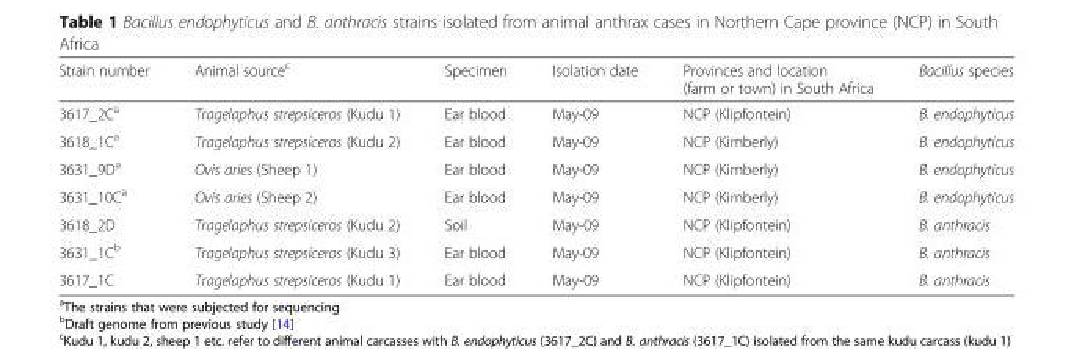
<table><thead><tr><td>Strain number</td><td>Animal source<sup>c</sup></td><td>Specimen</td><td>Isolation date</td><td>Provinces and location (farm or town) in South Africa</td><td>Bacillus species</td></tr></thead><tbody><tr><td>3617_2C<sup>a</sup></td><td>Tragelaphus strepsiceros (Kudu 1)</td><td>Ear blood</td><td>May-09</td><td>NCP (Klipfontein)</td><td>B. endophyticus</td></tr><tr><td>3618_1C<sup>a</sup></td><td>Tragelaphus strepsiceros (Kudu 2)</td><td>Ear blood</td><td>May-09</td><td>NCP (Kimberly)</td><td>B. endophyticus</td></tr><tr><td>3631_9D<sup>a</sup></td><td>Ovis aries (Sheep 1)</td><td>Ear blood</td><td>May-09</td><td>NCP (Kimberly)</td><td>B. endophyticus</td></tr><tr><td>3631_10C<sup>a</sup></td><td>Ovis aries (Sheep 2)</td><td>Ear blood</td><td>May-09</td><td>NCP (Kimberly)</td><td>B. endophyticus</td></tr><tr><td>3618_2D</td><td>Tragelaphus strepsiceros (Kudu 2)</td><td>Soil</td><td>May-09</td><td>NCP (Klipfontein)</td><td>B. anthracis</td></tr><tr><td>3631_1C<sup>b</sup></td><td>Tragelaphus strepsiceros (Kudu 3)</td><td>Ear blood</td><td>May-09</td><td>NCP (Klipfontein)</td><td>B. anthracis</td></tr><tr><td>3617_1C</td><td>Tragelaphus strepsiceros (Kudu 1)</td><td>Ear blood</td><td>May-09</td><td>NCP (Klipfontein)</td><td>B. anthracis</td></tr></tbody></table>